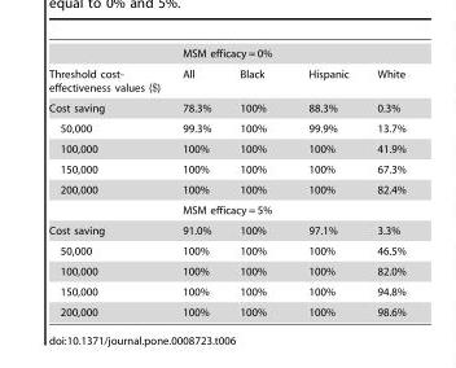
<table><thead><tr><td rowspan="2">Threshold cost- effectiveness values ($)</td><td colspan="4">MSM efficacy = 0%</td></tr><tr><td>All</td><td>Black</td><td>Hispanic</td><td>White</td></tr></thead><tbody><tr><td>Cost saving</td><td>78.3%</td><td>100%</td><td>88.3%</td><td>0.3%</td></tr><tr><td>50,000</td><td>99.3%</td><td>100%</td><td>99.9%</td><td>13.7%</td></tr><tr><td>100,000</td><td>100%</td><td>100%</td><td>100%</td><td>41.9%</td></tr><tr><td>150,000</td><td>100%</td><td>100%</td><td>100%</td><td>67.3%</td></tr><tr><td rowspan="2">200,000</td><td>100%</td><td>100%</td><td>100%</td><td>82.4%</td></tr><tr><td colspan="4">MSM efficacy = 5%</td></tr><tr><td>Cost saving</td><td>91.0%</td><td>100%</td><td>97.1%</td><td>3.3%</td></tr><tr><td>50,000</td><td>100%</td><td>100%</td><td>100%</td><td>46.5%</td></tr><tr><td>100,000</td><td>100%</td><td>100%</td><td>100%</td><td>82.0%</td></tr><tr><td>150,000</td><td>100%</td><td>100%</td><td>100%</td><td>94.8%</td></tr><tr><td>200,000</td><td>100%</td><td>100%</td><td>100%</td><td>98.6%</td></tr></tbody></table>